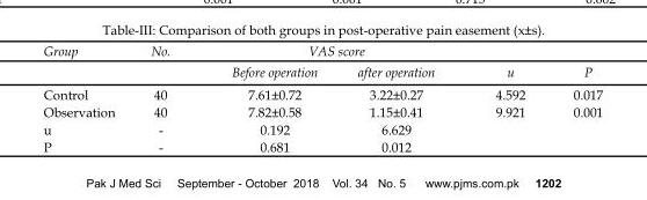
<table><thead><tr><td rowspan="2">Group</td><td rowspan="2">No.</td><td colspan="3">VAS score</td><td rowspan="2">P</td></tr><tr><td>Before operation</td><td>after operation</td><td>u</td></tr></thead><tbody><tr><td>Control</td><td>40</td><td>7.61±0.72</td><td>3.22±0.27</td><td>4.592</td><td>0.017</td></tr><tr><td>Observation</td><td>40</td><td>7.82±0.58</td><td>1.15±0.41</td><td>9.921</td><td>0.001</td></tr><tr><td>u</td><td>-</td><td>0.192</td><td>6.629</td><td></td><td></td></tr><tr><td>P</td><td>-</td><td>0.681</td><td>0.012</td><td></td><td></td></tr></tbody></table>